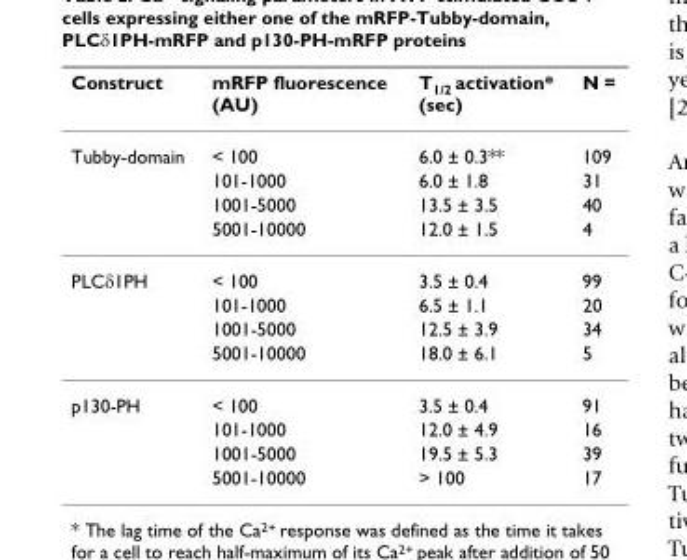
<table><thead><tr><td>Construct</td><td>mRFP fluorescence (AU)</td><td>T<sub>1/2</sub> activation* (sec)</td><td>N =</td></tr></thead><tbody><tr><td rowspan="4">Tubby-domain</td><td>&lt; 100</td><td>6.0 ± 0.3**</td><td>109</td></tr><tr><td>101-1000</td><td>6.0 ± 1.8</td><td>31</td></tr><tr><td>1001-5000</td><td>13.5 ± 3.5</td><td>40</td></tr><tr><td>5001-10000</td><td>12.0 ± 1.5</td><td>4</td></tr><tr><td rowspan="4">PLCδ1PH</td><td>&lt; 100</td><td>3.5 ± 0.4</td><td>99</td></tr><tr><td>101-1000</td><td>6.5 ± 1.1</td><td>20</td></tr><tr><td>1001-5000</td><td>12.5 ± 3.9</td><td>34</td></tr><tr><td>5001-10000</td><td>18.0 ± 6.1</td><td>5</td></tr><tr><td rowspan="4">p130-PH</td><td>&lt; 100</td><td>3.5 ± 0.4</td><td>91</td></tr><tr><td>101-1000</td><td>12.0 ± 4.9</td><td>16</td></tr><tr><td>1001-5000</td><td>19.5 ± 5.3</td><td>39</td></tr><tr><td>5001-10000</td><td>&gt; 100</td><td>17</td></tr></tbody></table>